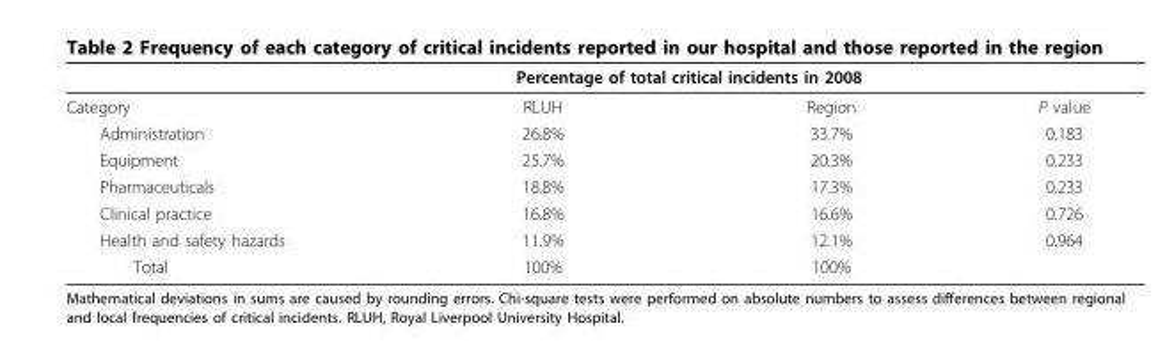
<table><thead><tr><td rowspan="2">Category</td><td colspan="2">Percentage of total critical incidents in 2008</td><td rowspan="2">P value</td></tr><tr><td>RLUH</td><td>Region</td></tr></thead><tbody><tr><td>Administration</td><td>26.8%</td><td>33.7%</td><td>0.183</td></tr><tr><td>Equipment</td><td>25.7%</td><td>20.3%</td><td>0.233</td></tr><tr><td>Pharmaceuticals</td><td>18.8%</td><td>17.3%</td><td>0.233</td></tr><tr><td>Clinical practice</td><td>16.8%</td><td>16.6%</td><td>0.726</td></tr><tr><td>Health and safety hazards</td><td>11.9%</td><td>12.1%</td><td>0.964</td></tr><tr><td>Total</td><td>100%</td><td>100%</td><td></td></tr></tbody></table>